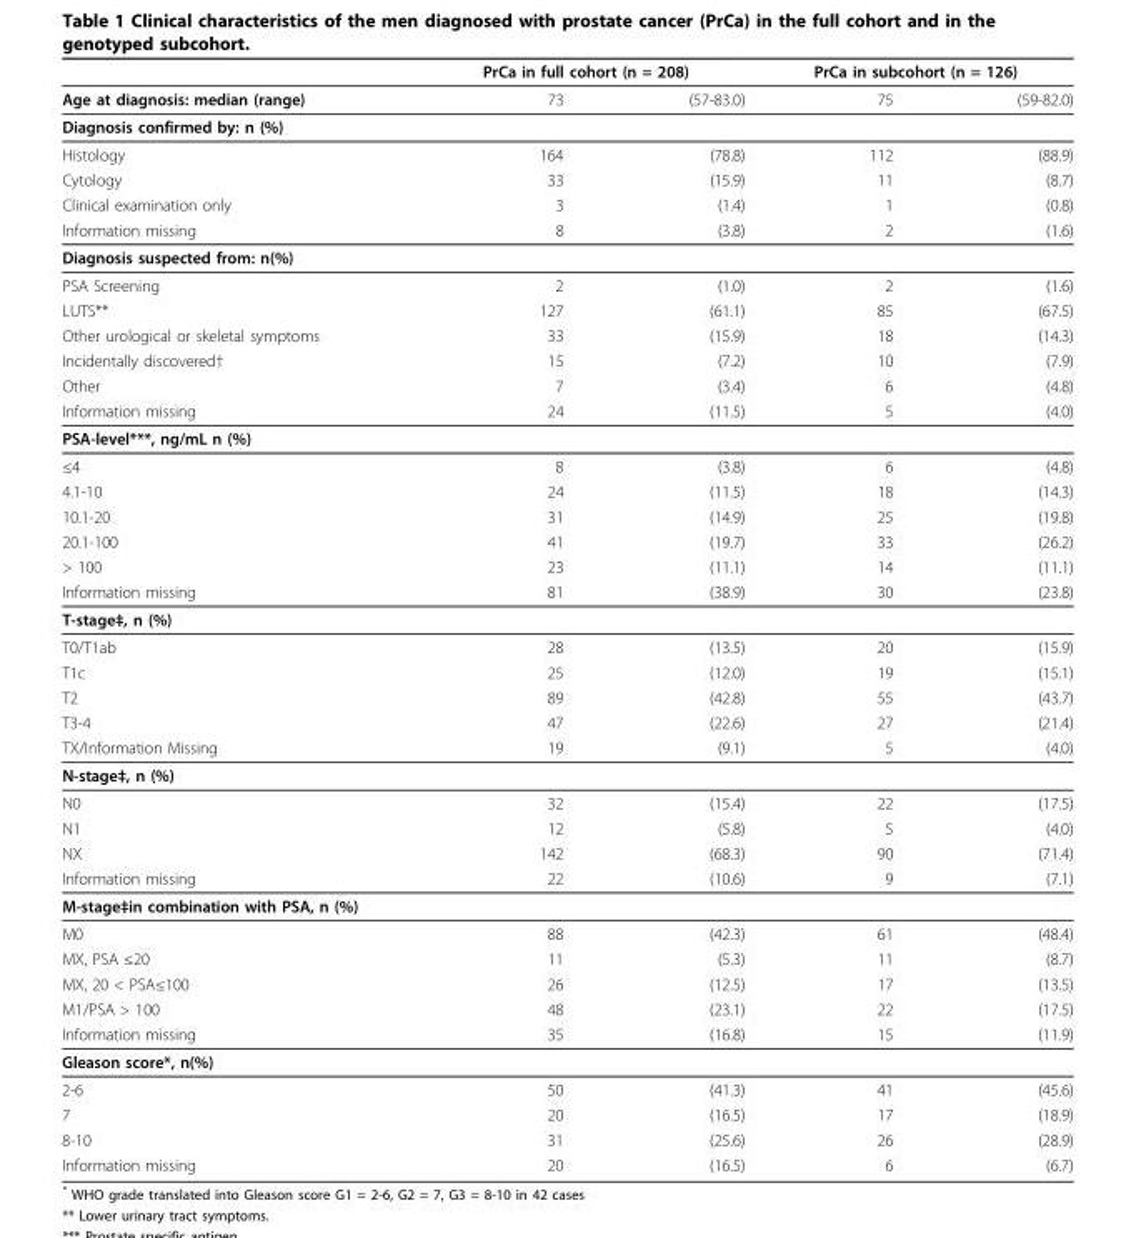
<table><thead><tr><td rowspan="2">Age at diagnosis: median (range)</td><td colspan="2">PrCa in full cohort (n = 208)</td><td colspan="2">PrCa in subcohort (n = 126)</td></tr><tr><td>73</td><td>(57-83.0)</td><td>75</td><td>(59-82.0)</td></tr></thead><tbody><tr><td colspan="5">Diagnosis confirmed by: n (%)</td></tr><tr><td>Histology</td><td>164</td><td>(78.8)</td><td>112</td><td>(88.9)</td></tr><tr><td>Cytology</td><td>33</td><td>(15.9)</td><td>11</td><td>(8.7)</td></tr><tr><td>Clinical examination only</td><td>3</td><td>(1.4)</td><td>1</td><td>(0.8)</td></tr><tr><td>Information missing</td><td>8</td><td>(3.8)</td><td>2</td><td>(1.6)</td></tr><tr><td colspan="5">Diagnosis suspected from: n(%)</td></tr><tr><td>PSA Screening</td><td>2</td><td>(1.0)</td><td>2</td><td>(1.6)</td></tr><tr><td>LUTS**</td><td>127</td><td>(61.1)</td><td>85</td><td>(67.5)</td></tr><tr><td>Other urological or skeletal symptoms</td><td>33</td><td>(15.9)</td><td>18</td><td>(14.3)</td></tr><tr><td>Incidentally discovered†</td><td>15</td><td>(7.2)</td><td>10</td><td>(7.9)</td></tr><tr><td>Other</td><td>7</td><td>(3.4)</td><td>6</td><td>(4.8)</td></tr><tr><td>Information missing</td><td>24</td><td>(11.5)</td><td>5</td><td>(4.0)</td></tr><tr><td colspan="5">PSA-level***, ng/mL n (%)</td></tr><tr><td>≤4</td><td>8</td><td>(3.8)</td><td>6</td><td>(4.8)</td></tr><tr><td>4.1-10</td><td>24</td><td>(11.5)</td><td>18</td><td>(14.3)</td></tr><tr><td>10.1-20</td><td>31</td><td>(14.9)</td><td>25</td><td>(19.8)</td></tr><tr><td>20.1-100</td><td>41</td><td>(19.7)</td><td>33</td><td>(26.2)</td></tr><tr><td>&gt; 100</td><td>23</td><td>(11.1)</td><td>14</td><td>(11.1)</td></tr><tr><td>Information missing</td><td>81</td><td>(38.9)</td><td>30</td><td>(23.8)</td></tr><tr><td colspan="5">T-stage‡, n (%)</td></tr><tr><td>T0/T1ab</td><td>28</td><td>(13.5)</td><td>20</td><td>(15.9)</td></tr><tr><td>T1c</td><td>25</td><td>(12.0)</td><td>19</td><td>(15.1)</td></tr><tr><td>T2</td><td>89</td><td>(42.8)</td><td>55</td><td>(43.7)</td></tr><tr><td>T3-4</td><td>47</td><td>(22.6)</td><td>27</td><td>(21.4)</td></tr><tr><td>TX/Information Missing</td><td>19</td><td>(9.1)</td><td>5</td><td>(4.0)</td></tr><tr><td colspan="5">N-stage‡, n (%)</td></tr><tr><td>N0</td><td>32</td><td>(15.4)</td><td>22</td><td>(17.5)</td></tr><tr><td>N1</td><td>12</td><td>(5.8)</td><td>5</td><td>(4.0)</td></tr><tr><td>NX</td><td>142</td><td>(68.3)</td><td>90</td><td>(71.4)</td></tr><tr><td>Information missing</td><td>22</td><td>(10.6)</td><td>9</td><td>(7.1)</td></tr><tr><td colspan="5">M-stage‡in combination with PSA, n (%)</td></tr><tr><td>M0</td><td>88</td><td>(42.3)</td><td>61</td><td>(48.4)</td></tr><tr><td>MX, PSA ≤20</td><td>11</td><td>(5.3)</td><td>11</td><td>(8.7)</td></tr><tr><td>MX, 20 &lt; PSA≤100</td><td>26</td><td>(12.5)</td><td>17</td><td>(13.5)</td></tr><tr><td>M1/PSA &gt; 100</td><td>48</td><td>(23.1)</td><td>22</td><td>(17.5)</td></tr><tr><td>Information missing</td><td>35</td><td>(16.8)</td><td>15</td><td>(11.9)</td></tr><tr><td colspan="5">Gleason score*, n(%)</td></tr><tr><td>2-6</td><td>50</td><td>(41.3)</td><td>41</td><td>(45.6)</td></tr><tr><td>7</td><td>20</td><td>(16.5)</td><td>17</td><td>(18.9)</td></tr><tr><td>8-10</td><td>31</td><td>(25.6)</td><td>26</td><td>(28.9)</td></tr><tr><td>Information missing</td><td>20</td><td>(16.5)</td><td>6</td><td>(6.7)</td></tr></tbody></table>